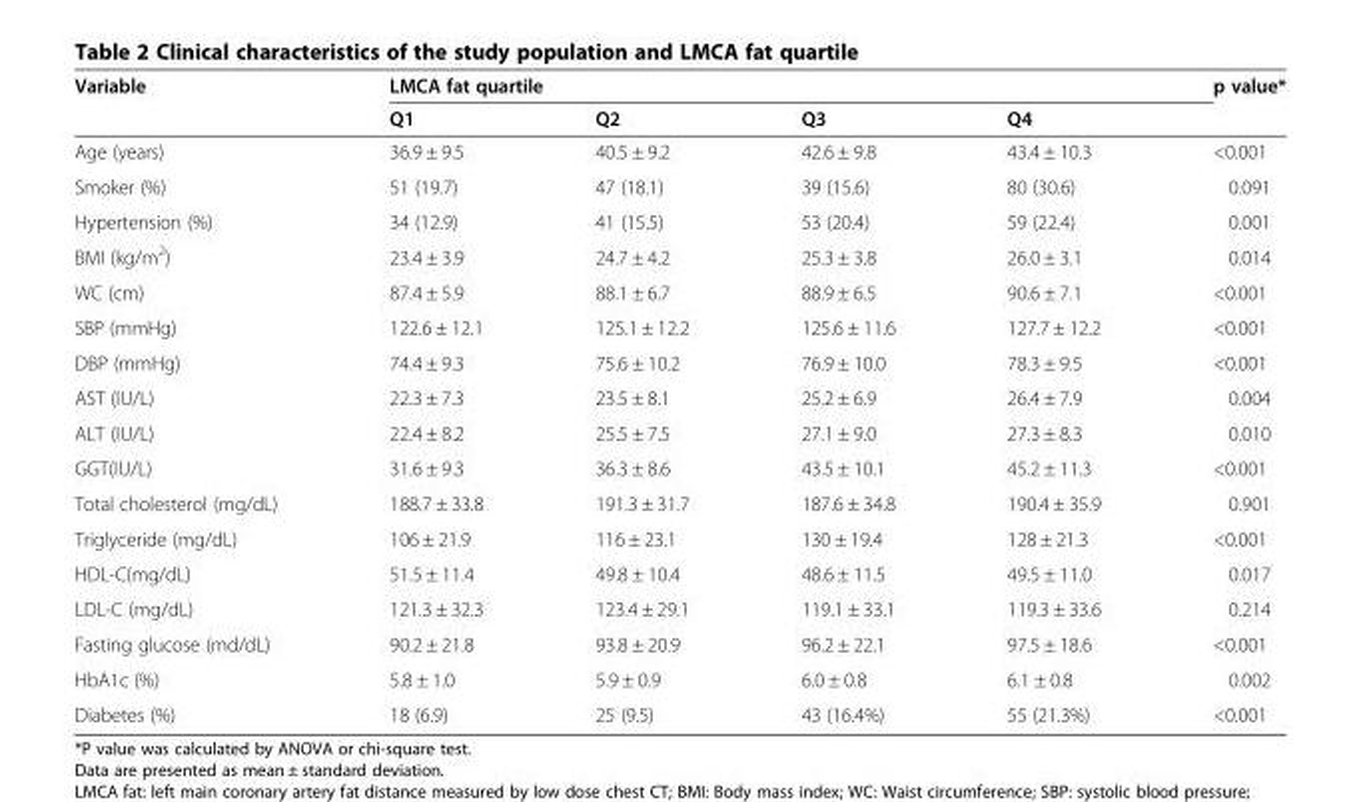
<table><thead><tr><td rowspan="2">Variable</td><td colspan="4">LMCA fat quartile</td><td rowspan="2">p value*</td></tr><tr><td>Q1</td><td>Q2</td><td>Q3</td><td>Q4</td></tr></thead><tbody><tr><td>Age (years)</td><td>36.9 ± 9.5</td><td>40.5 ± 9.2</td><td>42.6 ± 9.8</td><td>43.4 ± 10.3</td><td>&lt;0.001</td></tr><tr><td>Smoker (%)</td><td>51 (19.7)</td><td>47 (18.1)</td><td>39 (15.6)</td><td>80 (30.6)</td><td>0.091</td></tr><tr><td>Hypertension (%)</td><td>34 (12.9)</td><td>41 (15.5)</td><td>53 (20.4)</td><td>59 (22.4)</td><td>0.001</td></tr><tr><td>BMI (kg/m<sup>2</sup>)</td><td>23.4 ± 3.9</td><td>24.7 ± 4.2</td><td>25.3 ± 3.8</td><td>26.0 ± 3.1</td><td>0.014</td></tr><tr><td>WC (cm)</td><td>87.4 ± 5.9</td><td>88.1 ± 6.7</td><td>88.9 ± 6.5</td><td>90.6 ± 7.1</td><td>&lt;0.001</td></tr><tr><td>SBP (mmHg)</td><td>122.6 ± 12.1</td><td>125.1 ± 12.2</td><td>125.6 ± 11.6</td><td>127.7 ± 12.2</td><td>&lt;0.001</td></tr><tr><td>DBP (mmHg)</td><td>74.4 ± 9.3</td><td>75.6 ± 10.2</td><td>76.9 ± 10.0</td><td>78.3 ± 9.5</td><td>&lt;0.001</td></tr><tr><td>AST (IU/L)</td><td>22.3 ± 7.3</td><td>23.5 ± 8.1</td><td>25.2 ± 6.9</td><td>26.4 ± 7.9</td><td>0.004</td></tr><tr><td>ALT (IU/L)</td><td>22.4 ± 8.2</td><td>25.5 ± 7.5</td><td>27.1 ± 9.0</td><td>27.3 ± 8.3</td><td>0.010</td></tr><tr><td>GGT(IU/L)</td><td>31.6 ± 9.3</td><td>36.3 ± 8.6</td><td>43.5 ± 10.1</td><td>45.2 ± 11.3</td><td>&lt;0.001</td></tr><tr><td>Total cholesterol (mg/dL)</td><td>188.7 ± 33.8</td><td>191.3 ± 31.7</td><td>187.6 ± 34.8</td><td>190.4 ± 35.9</td><td>0.901</td></tr><tr><td>Triglyceride (mg/dL)</td><td>106 ± 21.9</td><td>116 ± 23.1</td><td>130 ± 19.4</td><td>128 ± 21.3</td><td>&lt;0.001</td></tr><tr><td>HDL-C(mg/dL)</td><td>51.5 ± 11.4</td><td>49.8 ± 10.4</td><td>48.6 ± 11.5</td><td>49.5 ± 11.0</td><td>0.017</td></tr><tr><td>LDL-C (mg/dL)</td><td>121.3 ± 32.3</td><td>123.4 ± 29.1</td><td>119.1 ± 33.1</td><td>119.3 ± 33.6</td><td>0.214</td></tr><tr><td>Fasting glucose (md/dL)</td><td>90.2 ± 21.8</td><td>93.8 ± 20.9</td><td>96.2 ± 22.1</td><td>97.5 ± 18.6</td><td>&lt;0.001</td></tr><tr><td>HbA1c (%)</td><td>5.8 ± 1.0</td><td>5.9 ± 0.9</td><td>6.0 ± 0.8</td><td>6.1 ± 0.8</td><td>0.002</td></tr><tr><td>Diabetes (%)</td><td>18 (6.9)</td><td>25 (9.5)</td><td>43 (16.4%)</td><td>55 (21.3%)</td><td>&lt;0.001</td></tr></tbody></table>